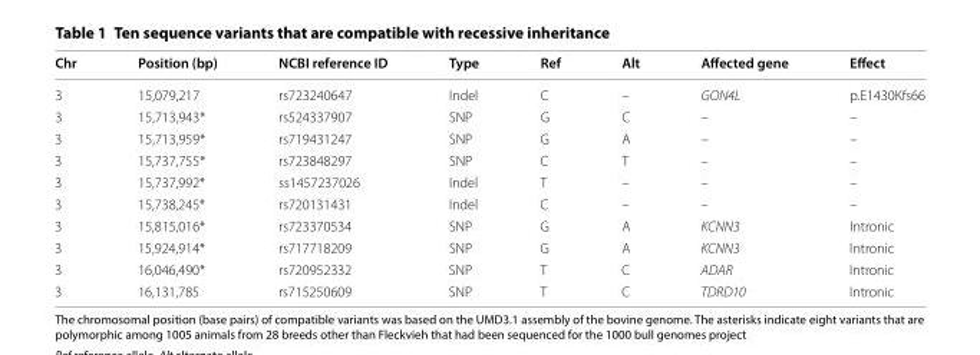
<table><thead><tr><td>Chr</td><td>Position (bp)</td><td>NCBI reference ID</td><td>Type</td><td>Ref</td><td>Alt</td><td>Affected gene</td><td>Effect</td></tr></thead><tbody><tr><td>3</td><td>15,079,217</td><td>rs723240647</td><td>Indel</td><td>C</td><td>–</td><td>GON4L</td><td>p.E1430Kfs66</td></tr><tr><td>3</td><td>15,713,943*</td><td>rs524337907</td><td>SNP</td><td>G</td><td>C</td><td>–</td><td>–</td></tr><tr><td>3</td><td>15,713,959*</td><td>rs719431247</td><td>SNP</td><td>G</td><td>A</td><td>–</td><td>–</td></tr><tr><td>3</td><td>15,737,755*</td><td>rs723848297</td><td>SNP</td><td>C</td><td>T</td><td>–</td><td>–</td></tr><tr><td>3</td><td>15,737,992*</td><td>ss1457237026</td><td>Indel</td><td>T</td><td>–</td><td>–</td><td>–</td></tr><tr><td>3</td><td>15,738,245*</td><td>rs720131431</td><td>Indel</td><td>C</td><td>–</td><td>–</td><td>–</td></tr><tr><td>3</td><td>15,815,016*</td><td>rs723370534</td><td>SNP</td><td>G</td><td>A</td><td>KCNN3</td><td>Intronic</td></tr><tr><td>3</td><td>15,924,914*</td><td>rs717718209</td><td>SNP</td><td>G</td><td>A</td><td>KCNN3</td><td>Intronic</td></tr><tr><td>3</td><td>16,046,490*</td><td>rs720952332</td><td>SNP</td><td>T</td><td>C</td><td>ADAR</td><td>Intronic</td></tr><tr><td>3</td><td>16,131,785</td><td>rs715250609</td><td>SNP</td><td>T</td><td>C</td><td>TDRD10</td><td>Intronic</td></tr></tbody></table>